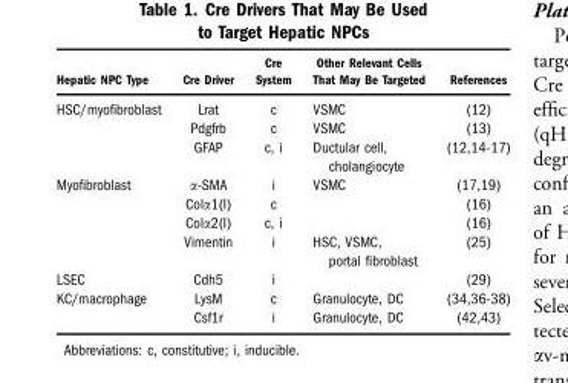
<table><thead><tr><td>Hepatic NPC Type</td><td>Cre Driver</td><td>Cre System</td><td>Other Relevant Cells That May Be Targeted</td><td>References</td></tr></thead><tbody><tr><td rowspan="3">HSC/myofibroblast</td><td>Lrat</td><td>c</td><td>VSMC</td><td>(12)</td></tr><tr><td>Pdgfrb</td><td>c</td><td>VSMC</td><td>(13)</td></tr><tr><td>GFAP</td><td>c, i</td><td>Ductular cell, cholangiocyte</td><td>(12,14-17)</td></tr><tr><td rowspan="4">Myofibroblast</td><td>α-SMA</td><td>i</td><td>VSMC</td><td>(17,19)</td></tr><tr><td>Colα1(I)</td><td>c</td><td></td><td>(16)</td></tr><tr><td>Colα2(I)</td><td>c, i</td><td></td><td>(16)</td></tr><tr><td>Vimentin</td><td>i</td><td>HSC, VSMC, portal fibroblast</td><td>(25)</td></tr><tr><td>LSEC</td><td>Cdh5</td><td>i</td><td></td><td>(29)</td></tr><tr><td rowspan="2">KC/macrophage</td><td>LysM</td><td>c</td><td>Granulocyte, DC</td><td>(34,36-38)</td></tr><tr><td>Csf1r</td><td>i</td><td>Granulocyte, DC</td><td>(42,43)</td></tr></tbody></table>